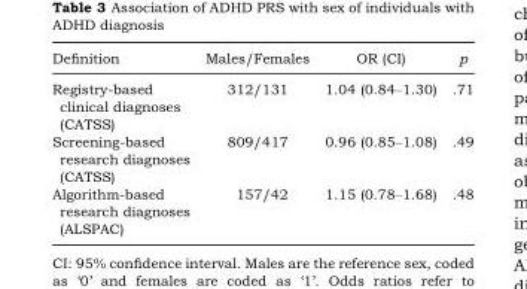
<table><thead><tr><td>Definition</td><td>Males/Females</td><td>OR (CI)</td><td>p</td></tr></thead><tbody><tr><td>Registry-based clinical diagnoses (CATSS)</td><td>312/131</td><td>1.04 (0.84–1.30)</td><td>.71</td></tr><tr><td>Screening-based research diagnoses (CATSS)</td><td>809/417</td><td>0.96 (0.85–1.08)</td><td>.49</td></tr><tr><td>Algorithm-based research diagnoses (ALSPAC)</td><td>157/42</td><td>1.15 (0.78–1.68)</td><td>.48</td></tr></tbody></table>